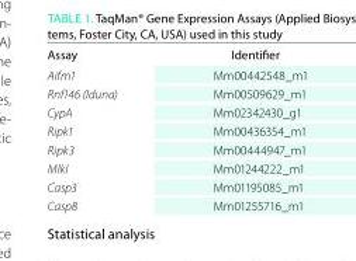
<table><thead><tr><td>Assay</td><td>Identifier</td></tr></thead><tbody><tr><td>Aifm1</td><td>Mm00442548_m1</td></tr><tr><td>Rnf146 (Iduna)</td><td>Mm00509629_m1</td></tr><tr><td>CypA</td><td>Mm02342430_g1</td></tr><tr><td>Ripk1</td><td>Mm00436354_m1</td></tr><tr><td>Ripk3</td><td>Mm00444947_m1</td></tr><tr><td>Mlkl</td><td>Mm01244222_m1</td></tr><tr><td>Casp3</td><td>Mm01195085_m1</td></tr><tr><td>Casp8</td><td>Mm01255716_m1</td></tr></tbody></table>